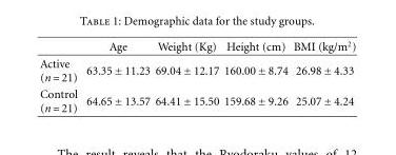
<table><thead><tr><td></td><td>Age</td><td>Weight (Kg)</td><td>Height (cm)</td><td>BMI (kg/m<sup>2</sup>)</td></tr></thead><tbody><tr><td>Active (n = 21)</td><td>63.35 ± 11.23</td><td>69.04 ± 12.17</td><td>160.00 ± 8.74</td><td>26.98 ± 4.33</td></tr><tr><td>Control (n = 21)</td><td>64.65 ± 13.57</td><td>64.41 ± 15.50</td><td>159.68 ± 9.26</td><td>25.07 ± 4.24</td></tr></tbody></table>